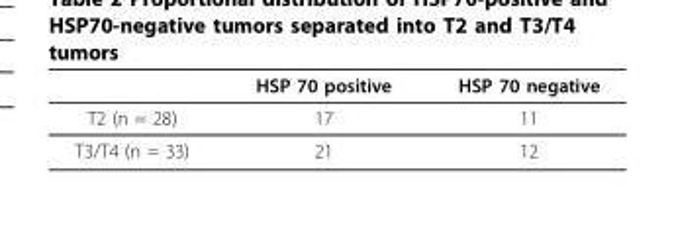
<table><thead><tr><td></td><td>HSP 70 positive</td><td>HSP 70 negative</td></tr></thead><tbody><tr><td>T2 (n = 28)</td><td>17</td><td>11</td></tr><tr><td>T3/T4 (n = 33)</td><td>21</td><td>12</td></tr></tbody></table>